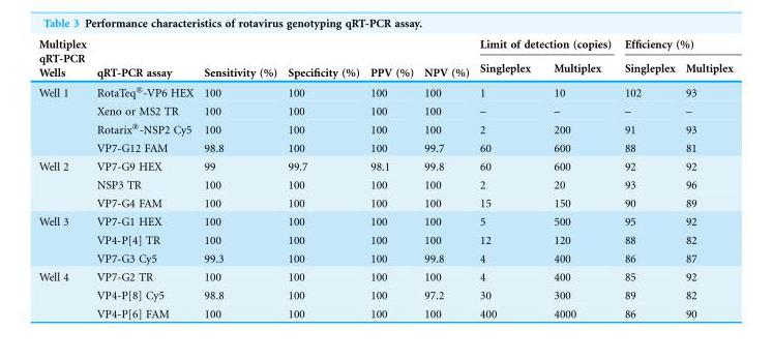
<table><thead><tr><td rowspan="2">Multiplex qRT-PCR Wells</td><td rowspan="2">qRT-PCR assay</td><td rowspan="2">Sensitivity (%)</td><td rowspan="2">Specificity (%)</td><td rowspan="2">PPV (%)</td><td rowspan="2">NPV (%)</td><td colspan="2">Limit of detection (copies)</td><td colspan="2">Efficiency (%)</td></tr><tr><td>Singleplex</td><td>Multiplex</td><td>Singleplex</td><td>Multiplex</td></tr></thead><tbody><tr><td rowspan="4">Well 1</td><td>RotaTeq®-VP6 HEX</td><td>100</td><td>100</td><td>100</td><td>100</td><td>1</td><td>10</td><td>102</td><td>93</td></tr><tr><td>Xeno or MS2 TR</td><td>100</td><td>100</td><td>100</td><td>100</td><td>–</td><td>–</td><td>–</td><td>–</td></tr><tr><td>Rotarix®-NSP2 Cy5</td><td>100</td><td>100</td><td>100</td><td>100</td><td>2</td><td>200</td><td>91</td><td>93</td></tr><tr><td>VP7-G12 FAM</td><td>98.8</td><td>100</td><td>100</td><td>99.7</td><td>60</td><td>600</td><td>88</td><td>81</td></tr><tr><td rowspan="3">Well 2</td><td>VP7-G9 HEX</td><td>99</td><td>99.7</td><td>98.1</td><td>99.8</td><td>60</td><td>600</td><td>92</td><td>92</td></tr><tr><td>NSP3 TR</td><td>100</td><td>100</td><td>100</td><td>100</td><td>2</td><td>20</td><td>93</td><td>96</td></tr><tr><td>VP7-G4 FAM</td><td>100</td><td>100</td><td>100</td><td>100</td><td>15</td><td>150</td><td>90</td><td>89</td></tr><tr><td rowspan="3">Well 3</td><td>VP7-G1 HEX</td><td>100</td><td>100</td><td>100</td><td>100</td><td>5</td><td>500</td><td>95</td><td>92</td></tr><tr><td>VP4-P[4] TR</td><td>100</td><td>100</td><td>100</td><td>100</td><td>12</td><td>120</td><td>88</td><td>82</td></tr><tr><td>VP7-G3 Cy5</td><td>99.3</td><td>100</td><td>100</td><td>99.8</td><td>4</td><td>400</td><td>86</td><td>87</td></tr><tr><td rowspan="3">Well 4</td><td>VP7-G2 TR</td><td>100</td><td>100</td><td>100</td><td>100</td><td>4</td><td>400</td><td>85</td><td>92</td></tr><tr><td>VP4-P[8] Cy5</td><td>98.8</td><td>100</td><td>100</td><td>97.2</td><td>30</td><td>300</td><td>89</td><td>82</td></tr><tr><td>VP4-P[6] FAM</td><td>100</td><td>100</td><td>100</td><td>100</td><td>400</td><td>4000</td><td>86</td><td>90</td></tr></tbody></table>